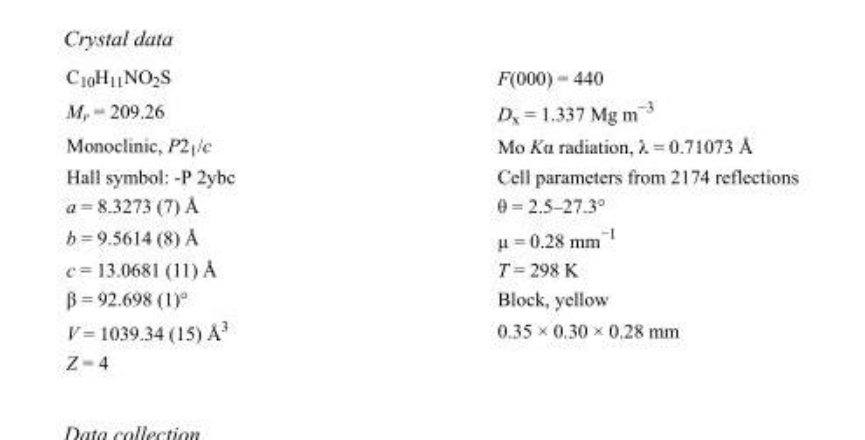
<table><tbody><tr><td>C<sub>10</sub>H<sub>11</sub>NO<sub>2</sub>S</td><td>F(000) = 440</td></tr><tr><td>M<sub>r</sub> = 209.26</td><td>D<sub>x</sub> = 1.337 Mg m<sup>−3</sup></td></tr><tr><td>Monoclinic, P2<sub>1</sub>/c</td><td>Mo Kα radiation, λ = 0.71073 Å</td></tr><tr><td>Hall symbol: -P 2ybc</td><td>Cell parameters from 2174 reflections</td></tr><tr><td>a = 8.3273 (7) Å</td><td>θ = 2.5–27.3°</td></tr><tr><td>b = 9.5614 (8) Å</td><td>µ = 0.28 mm<sup>−1</sup></td></tr><tr><td>c = 13.0681 (11) Å</td><td>T = 298 K</td></tr><tr><td>β = 92.698 (1)°</td><td>Block, yellow</td></tr><tr><td>V = 1039.34 (15) Å<sup>3</sup></td><td>0.35 × 0.30 × 0.28 mm</td></tr><tr><td>Z = 4</td><td></td></tr></tbody></table>